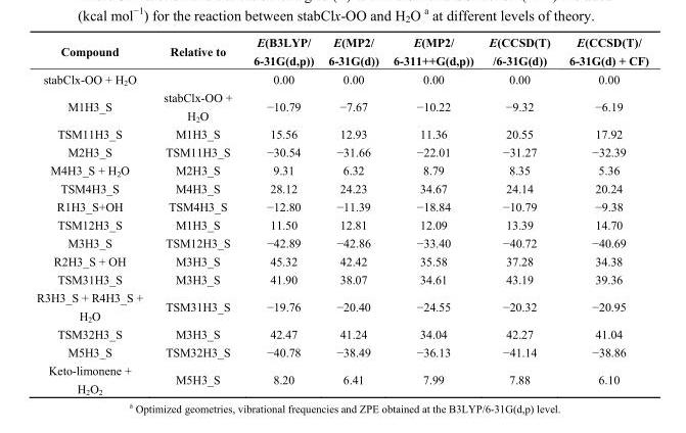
<table><thead><tr><td>Compound</td><td>Relative to</td><td>E(B3LYP/ 6-31G(d,p))</td><td>E(MP2/ 6-31G(d))</td><td>E(MP2/ 6-311++G(d,p))</td><td>E(CCSD(T) /6-31G(d))</td><td>E(CCSD(T)/ 6-31G(d) + CF)</td></tr></thead><tbody><tr><td>stabClx-OO + H<sub>2</sub>O</td><td></td><td>0.00</td><td>0.00</td><td>0.00</td><td>0.00</td><td>0.00</td></tr><tr><td>M1H3_S</td><td>stabClx-OO + H<sub>2</sub>O</td><td>−10.79</td><td>−7.67</td><td>−10.22</td><td>−9.32</td><td>−6.19</td></tr><tr><td>TSM11H3_S</td><td>M1H3_S</td><td>15.56</td><td>12.93</td><td>11.36</td><td>20.55</td><td>17.92</td></tr><tr><td>M2H3_S</td><td>TSM11H3_S</td><td>−30.54</td><td>−31.66</td><td>−22.01</td><td>−31.27</td><td>−32.39</td></tr><tr><td>M4H3_S + H<sub>2</sub>O</td><td>M2H3_S</td><td>9.31</td><td>6.32</td><td>8.79</td><td>8.35</td><td>5.36</td></tr><tr><td>TSM4H3_S</td><td>M4H3_S</td><td>28.12</td><td>24.23</td><td>34.67</td><td>24.14</td><td>20.24</td></tr><tr><td>R1H3_S+OH</td><td>TSM4H3_S</td><td>−12.80</td><td>−11.39</td><td>−18.84</td><td>−10.79</td><td>−9.38</td></tr><tr><td>TSM12H3_S</td><td>M1H3_S</td><td>11.50</td><td>12.81</td><td>12.09</td><td>13.39</td><td>14.70</td></tr><tr><td>M3H3_S</td><td>TSM12H3_S</td><td>−42.89</td><td>−42.86</td><td>−33.40</td><td>−40.72</td><td>−40.69</td></tr><tr><td>R2H3_S + OH</td><td>M3H3_S</td><td>45.32</td><td>42.42</td><td>35.58</td><td>37.28</td><td>34.38</td></tr><tr><td>TSM31H3_S</td><td>M3H3_S</td><td>41.90</td><td>38.07</td><td>34.61</td><td>43.19</td><td>39.36</td></tr><tr><td>R3H3_S + R4H3_S + H<sub>2</sub>O</td><td>TSM31H3_S</td><td>−19.76</td><td>−20.40</td><td>−24.55</td><td>−20.32</td><td>−20.95</td></tr><tr><td>TSM32H3_S</td><td>M3H3_S</td><td>42.47</td><td>41.24</td><td>34.04</td><td>42.27</td><td>41.04</td></tr><tr><td>M5H3_S</td><td>TSM32H3_S</td><td>−40.78</td><td>−38.49</td><td>−36.13</td><td>−41.14</td><td>−38.86</td></tr><tr><td>Keto-limonene + H<sub>2</sub>O<sub>2</sub></td><td>M5H3_S</td><td>8.20</td><td>6.41</td><td>7.99</td><td>7.88</td><td>6.10</td></tr></tbody></table>